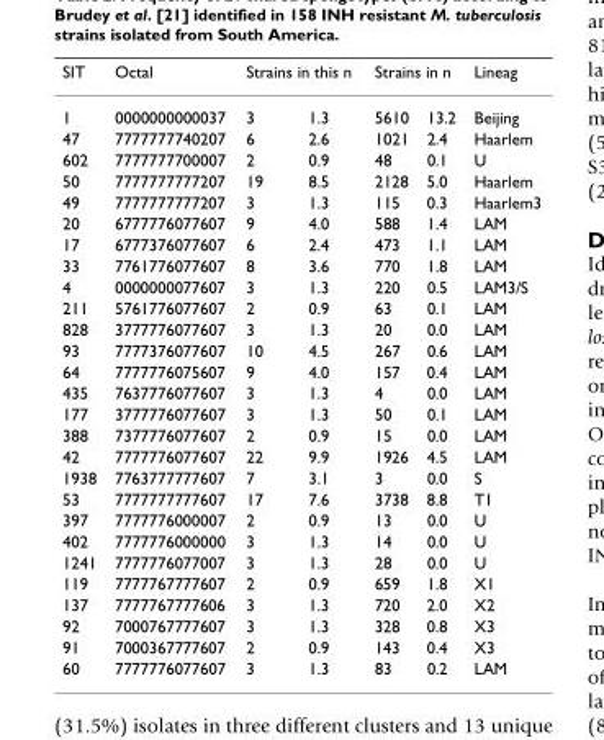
<table><thead><tr><td rowspan="2">SIT 1</td><td rowspan="2">Octal 0000000000037</td><td colspan="2">Strains in this n</td><td colspan="2">Strains in n</td><td rowspan="2">Lineag Beijing</td></tr><tr><td>3</td><td>1.3</td><td>5610</td><td>13.2</td></tr></thead><tbody><tr><td>47</td><td>7777777740207</td><td>6</td><td>2.6</td><td>1021</td><td>2.4</td><td>Haarlem</td></tr><tr><td>602</td><td>7777777700007</td><td>2</td><td>0.9</td><td>48</td><td>0.1</td><td>U</td></tr><tr><td>50</td><td>7777777777207</td><td>19</td><td>8.5</td><td>2128</td><td>5.0</td><td>Haarlem</td></tr><tr><td>49</td><td>7777777777207</td><td>3</td><td>1.3</td><td>115</td><td>0.3</td><td>Haarlem3</td></tr><tr><td>20</td><td>6777776077607</td><td>9</td><td>4.0</td><td>588</td><td>1.4</td><td>LAM</td></tr><tr><td>17</td><td>6777376077607</td><td>6</td><td>2.4</td><td>473</td><td>1.1</td><td>LAM</td></tr><tr><td>33</td><td>7761776077607</td><td>8</td><td>3.6</td><td>770</td><td>1.8</td><td>LAM</td></tr><tr><td>4</td><td>0000000077607</td><td>3</td><td>1.3</td><td>220</td><td>0.5</td><td>LAM3/S</td></tr><tr><td>211</td><td>5761776077607</td><td>2</td><td>0.9</td><td>63</td><td>0.1</td><td>LAM</td></tr><tr><td>828</td><td>3777776077607</td><td>3</td><td>1.3</td><td>20</td><td>0.0</td><td>LAM</td></tr><tr><td>93</td><td>7777376077607</td><td>10</td><td>4.5</td><td>267</td><td>0.6</td><td>LAM</td></tr><tr><td>64</td><td>7777776075607</td><td>9</td><td>4.0</td><td>157</td><td>0.4</td><td>LAM</td></tr><tr><td>435</td><td>7637776077607</td><td>3</td><td>1.3</td><td>4</td><td>0.0</td><td>LAM</td></tr><tr><td>177</td><td>3777776077607</td><td>3</td><td>1.3</td><td>50</td><td>0.1</td><td>LAM</td></tr><tr><td>388</td><td>7377776077607</td><td>2</td><td>0.9</td><td>15</td><td>0.0</td><td>LAM</td></tr><tr><td>42</td><td>7777776077607</td><td>22</td><td>9.9</td><td>1926</td><td>4.5</td><td>LAM</td></tr><tr><td>1938</td><td>7763777777607</td><td>7</td><td>3.1</td><td>3</td><td>0.0</td><td>S</td></tr><tr><td>53</td><td>7777777777607</td><td>17</td><td>7.6</td><td>3738</td><td>8.8</td><td>T1</td></tr><tr><td>397</td><td>7777776000007</td><td>2</td><td>0.9</td><td>13</td><td>0.0</td><td>U</td></tr><tr><td>402</td><td>7777776000000</td><td>3</td><td>1.3</td><td>14</td><td>0.0</td><td>U</td></tr><tr><td>1241</td><td>7777776077007</td><td>3</td><td>1.3</td><td>28</td><td>0.0</td><td>U</td></tr><tr><td>119</td><td>7777767777607</td><td>2</td><td>0.9</td><td>659</td><td>1.8</td><td>X1</td></tr><tr><td>137</td><td>7777767777606</td><td>3</td><td>1.3</td><td>720</td><td>2.0</td><td>X2</td></tr><tr><td>92</td><td>7000767777607</td><td>3</td><td>1.3</td><td>328</td><td>0.8</td><td>X3</td></tr><tr><td>91</td><td>7000367777607</td><td>2</td><td>0.9</td><td>143</td><td>0.4</td><td>X3</td></tr><tr><td>60</td><td>7777776077607</td><td>3</td><td>1.3</td><td>83</td><td>0.2</td><td>LAM</td></tr></tbody></table>